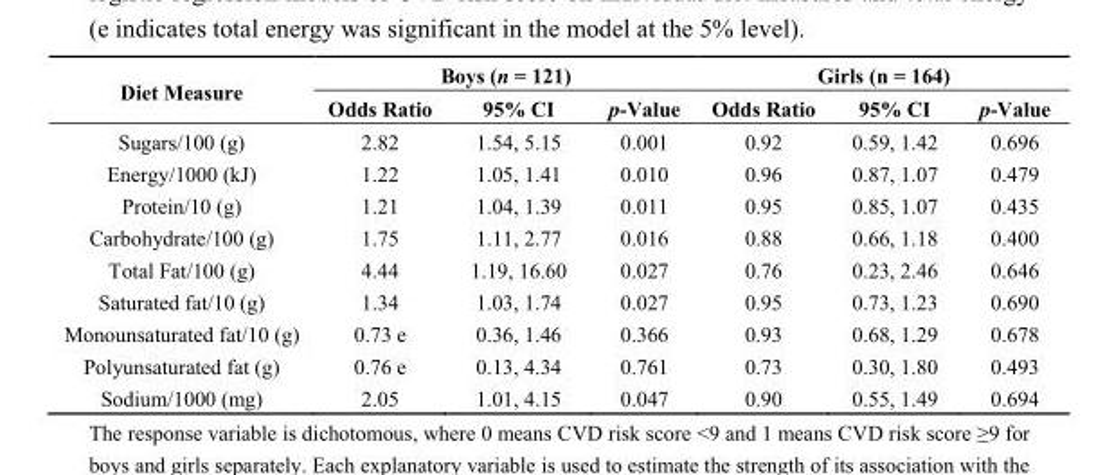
<table><thead><tr><td rowspan="2">Diet Measure</td><td colspan="3">Boys (n = 121)</td><td colspan="3">Girls (n = 164)</td></tr><tr><td>Odds Ratio</td><td>95% CI</td><td>p-Value</td><td>Odds Ratio</td><td>95% CI</td><td>p-Value</td></tr></thead><tbody><tr><td>Sugars/100 (g)</td><td>2.82</td><td>1.54, 5.15</td><td>0.001</td><td>0.92</td><td>0.59, 1.42</td><td>0.696</td></tr><tr><td>Energy/1000 (kJ)</td><td>1.22</td><td>1.05, 1.41</td><td>0.010</td><td>0.96</td><td>0.87, 1.07</td><td>0.479</td></tr><tr><td>Protein/10 (g)</td><td>1.21</td><td>1.04, 1.39</td><td>0.011</td><td>0.95</td><td>0.85, 1.07</td><td>0.435</td></tr><tr><td>Carbohydrate/100 (g)</td><td>1.75</td><td>1.11, 2.77</td><td>0.016</td><td>0.88</td><td>0.66, 1.18</td><td>0.400</td></tr><tr><td>Total Fat/100 (g)</td><td>4.44</td><td>1.19, 16.60</td><td>0.027</td><td>0.76</td><td>0.23, 2.46</td><td>0.646</td></tr><tr><td>Saturated fat/10 (g)</td><td>1.34</td><td>1.03, 1.74</td><td>0.027</td><td>0.95</td><td>0.73, 1.23</td><td>0.690</td></tr><tr><td>Monounsaturated fat/10 (g)</td><td>0.73 e</td><td>0.36, 1.46</td><td>0.366</td><td>0.93</td><td>0.68, 1.29</td><td>0.678</td></tr><tr><td>Polyunsaturated fat (g)</td><td>0.76 e</td><td>0.13, 4.34</td><td>0.761</td><td>0.73</td><td>0.30, 1.80</td><td>0.493</td></tr><tr><td>Sodium/1000 (mg)</td><td>2.05</td><td>1.01, 4.15</td><td>0.047</td><td>0.90</td><td>0.55, 1.49</td><td>0.694</td></tr></tbody></table>